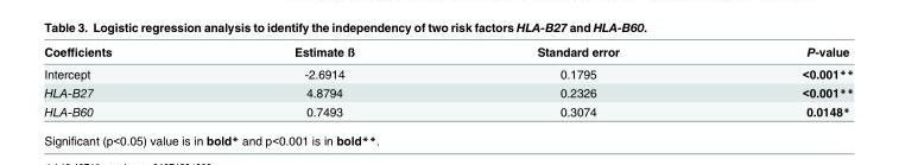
<table><thead><tr><td>Coefficients</td><td>Estimate ß</td><td>Standard error</td><td>P-value</td></tr></thead><tbody><tr><td>Intercept</td><td>-2.6914</td><td>0.1795</td><td>&lt;0.001**</td></tr><tr><td>HLA-B27</td><td>4.8794</td><td>0.2326</td><td>&lt;0.001**</td></tr><tr><td>HLA-B60</td><td>0.7493</td><td>0.3074</td><td>0.0148*</td></tr></tbody></table>